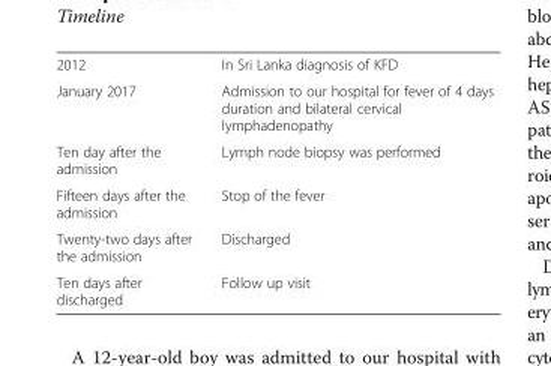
<table><tbody><tr><td>2012</td><td>In Sri Lanka diagnosis of KFD</td></tr><tr><td>January 2017</td><td>Admission to our hospital for fever of 4 days duration and bilateral cervical lymphadenopathy</td></tr><tr><td>Ten day after the admission</td><td>Lymph node biopsy was performed</td></tr><tr><td>Fifteen days after the admission</td><td>Stop of the fever</td></tr><tr><td>Twenty-two days after the admission</td><td>Discharged</td></tr><tr><td>Ten days after discharged</td><td>Follow up visit</td></tr></tbody></table>